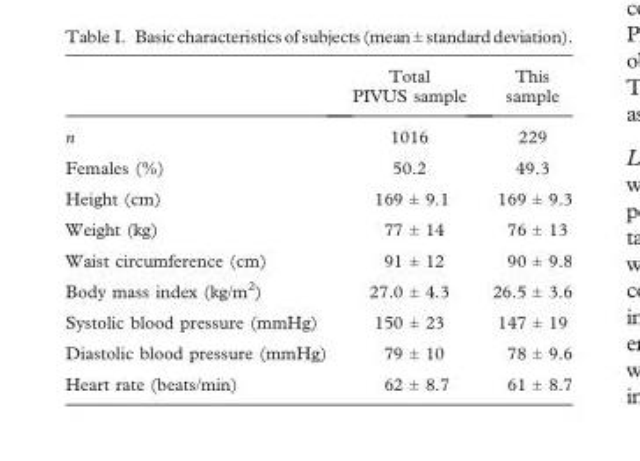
<table><thead><tr><td></td><td>Total PIVUS sample</td><td>This sample</td></tr></thead><tbody><tr><td>n</td><td>1016</td><td>229</td></tr><tr><td>Females (%)</td><td>50.2</td><td>49.3</td></tr><tr><td>Height (cm)</td><td>169 ± 9.1</td><td>169 ± 9.3</td></tr><tr><td>Weight (kg)</td><td>77 ± 14</td><td>76 ± 13</td></tr><tr><td>Waist circumference (cm)</td><td>91 ± 12</td><td>90 ± 9.8</td></tr><tr><td>Body mass index (kg/m<sup>2</sup>)</td><td>27.0 ± 4.3</td><td>26.5 ± 3.6</td></tr><tr><td>Systolic blood pressure (mmHg)</td><td>150 ± 23</td><td>147 ± 19</td></tr><tr><td>Diastolic blood pressure (mmHg)</td><td>79 ± 10</td><td>78 ± 9.6</td></tr><tr><td>Heart rate (beats/min)</td><td>62 ± 8.7</td><td>61 ± 8.7</td></tr></tbody></table>